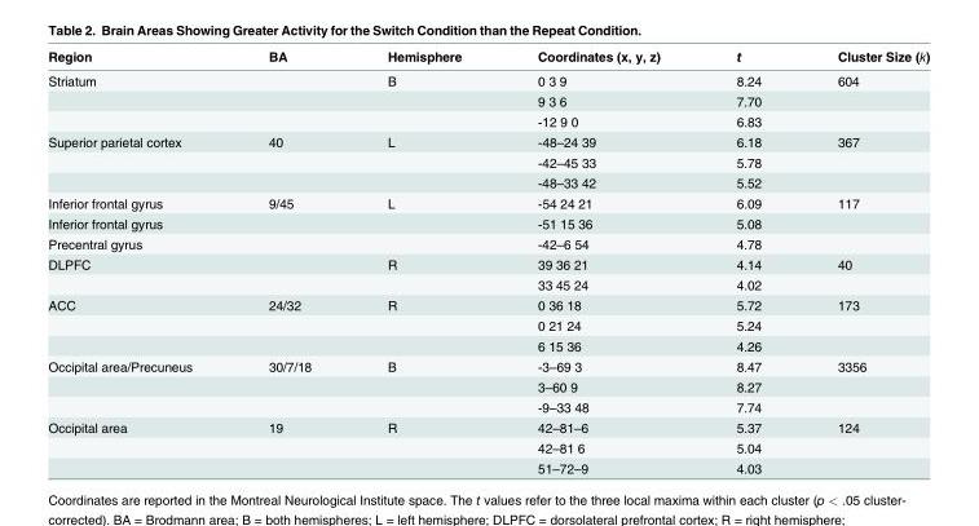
<table><thead><tr><td>Region</td><td>BA</td><td>Hemisphere</td><td>Coordinates (x, y, z)</td><td>t</td><td>Cluster Size (k)</td></tr></thead><tbody><tr><td rowspan="3">Striatum</td><td></td><td>B</td><td>0 3 9</td><td>8.24</td><td>604</td></tr><tr><td></td><td></td><td>9 3 6</td><td>7.70</td><td></td></tr><tr><td></td><td></td><td>-12 9 0</td><td>6.83</td><td></td></tr><tr><td rowspan="3">Superior parietal cortex</td><td>40</td><td>L</td><td>-48–24 39</td><td>6.18</td><td>367</td></tr><tr><td></td><td></td><td>-42–45 33</td><td>5.78</td><td></td></tr><tr><td></td><td></td><td>-48–33 42</td><td>5.52</td><td></td></tr><tr><td>Inferior frontal gyrus</td><td>9/45</td><td>L</td><td>-54 24 21</td><td>6.09</td><td>117</td></tr><tr><td>Inferior frontal gyrus</td><td></td><td></td><td>-51 15 36</td><td>5.08</td><td></td></tr><tr><td>Precentral gyrus</td><td></td><td></td><td>-42–6 54</td><td>4.78</td><td></td></tr><tr><td rowspan="2">DLPFC</td><td></td><td>R</td><td>39 36 21</td><td>4.14</td><td>40</td></tr><tr><td></td><td></td><td>33 45 24</td><td>4.02</td><td></td></tr><tr><td rowspan="3">ACC</td><td>24/32</td><td>R</td><td>0 36 18</td><td>5.72</td><td>173</td></tr><tr><td></td><td></td><td>0 21 24</td><td>5.24</td><td></td></tr><tr><td></td><td></td><td>6 15 36</td><td>4.26</td><td></td></tr><tr><td rowspan="3">Occipital area/Precuneus</td><td>30/7/18</td><td>B</td><td>-3–69 3</td><td>8.47</td><td>3356</td></tr><tr><td></td><td></td><td>3–60 9</td><td>8.27</td><td></td></tr><tr><td></td><td></td><td>-9–33 48</td><td>7.74</td><td></td></tr><tr><td rowspan="3">Occipital area</td><td>19</td><td>R</td><td>42–81–6</td><td>5.37</td><td>124</td></tr><tr><td></td><td></td><td>42–81 6</td><td>5.04</td><td></td></tr><tr><td></td><td></td><td>51–72–9</td><td>4.03</td><td></td></tr></tbody></table>